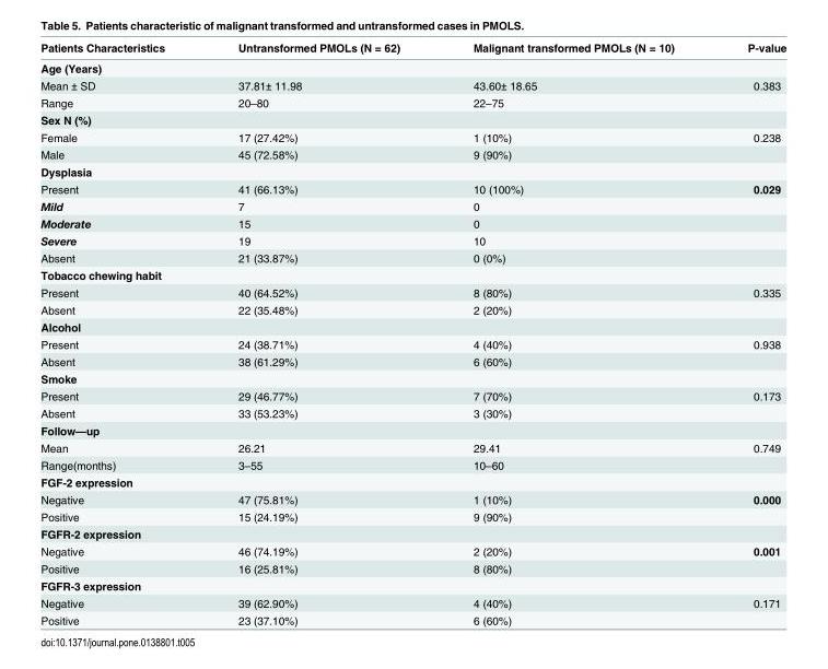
<table><thead><tr><td>Patients Characteristics</td><td>Untransformed PMOLs (N = 62)</td><td>Malignant transformed PMOLs (N = 10)</td><td>P-value</td></tr></thead><tbody><tr><td colspan="4">Age (Years)</td></tr><tr><td>Mean ± SD</td><td>37.81± 11.98</td><td>43.60± 18.65</td><td>0.383</td></tr><tr><td>Range</td><td>20–80</td><td>22–75</td><td></td></tr><tr><td colspan="4">Sex N (%)</td></tr><tr><td>Female</td><td>17 (27.42%)</td><td>1 (10%)</td><td>0.238</td></tr><tr><td>Male</td><td>45 (72.58%)</td><td>9 (90%)</td><td></td></tr><tr><td colspan="4">Dysplasia</td></tr><tr><td>Present</td><td>41 (66.13%)</td><td>10 (100%)</td><td>0.029</td></tr><tr><td>Mild</td><td>7</td><td>0</td><td></td></tr><tr><td>Moderate</td><td>15</td><td>0</td><td></td></tr><tr><td>Severe</td><td>19</td><td>10</td><td></td></tr><tr><td>Absent</td><td>21 (33.87%)</td><td>0 (0%)</td><td></td></tr><tr><td colspan="4">Tobacco chewing habit</td></tr><tr><td>Present</td><td>40 (64.52%)</td><td>8 (80%)</td><td>0.335</td></tr><tr><td>Absent</td><td>22 (35.48%)</td><td>2 (20%)</td><td></td></tr><tr><td colspan="4">Alcohol</td></tr><tr><td>Present</td><td>24 (38.71%)</td><td>4 (40%)</td><td>0.938</td></tr><tr><td>Absent</td><td>38 (61.29%)</td><td>6 (60%)</td><td></td></tr><tr><td colspan="4">Smoke</td></tr><tr><td>Present</td><td>29 (46.77%)</td><td>7 (70%)</td><td>0.173</td></tr><tr><td>Absent</td><td>33 (53.23%)</td><td>3 (30%)</td><td></td></tr><tr><td colspan="4">Follow—up</td></tr><tr><td>Mean</td><td>26.21</td><td>29.41</td><td>0.749</td></tr><tr><td>Range(months)</td><td>3–55</td><td>10–60</td><td></td></tr><tr><td colspan="4">FGF-2 expression</td></tr><tr><td>Negative</td><td>47 (75.81%)</td><td>1 (10%)</td><td>0.000</td></tr><tr><td>Positive</td><td>15 (24.19%)</td><td>9 (90%)</td><td></td></tr><tr><td colspan="4">FGFR-2 expression</td></tr><tr><td>Negative</td><td>46 (74.19%)</td><td>2 (20%)</td><td>0.001</td></tr><tr><td>Positive</td><td>16 (25.81%)</td><td>8 (80%)</td><td></td></tr><tr><td colspan="4">FGFR-3 expression</td></tr><tr><td>Negative</td><td>39 (62.90%)</td><td>4 (40%)</td><td>0.171</td></tr><tr><td>Positive</td><td>23 (37.10%)</td><td>6 (60%)</td><td></td></tr></tbody></table>